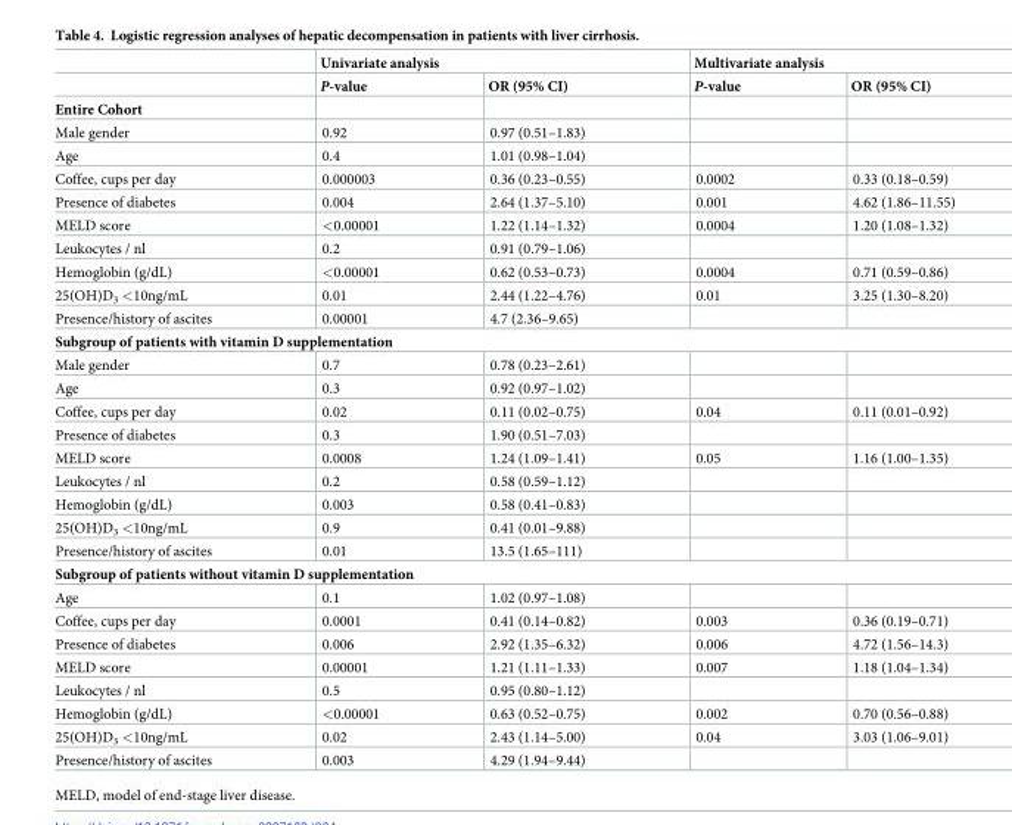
<table><thead><tr><td rowspan="2"></td><td colspan="2">Univariate analysis</td><td colspan="2">Multivariate analysis</td></tr><tr><td>P-value</td><td>OR (95% CI)</td><td>P-value</td><td>OR (95% CI)</td></tr></thead><tbody><tr><td colspan="5">Entire Cohort</td></tr><tr><td>Male gender</td><td>0.92</td><td>0.97 (0.51–1.83)</td><td></td><td></td></tr><tr><td>Age</td><td>0.4</td><td>1.01 (0.98–1.04)</td><td></td><td></td></tr><tr><td>Coffee, cups per day</td><td>0.000003</td><td>0.36 (0.23–0.55)</td><td>0.0002</td><td>0.33 (0.18–0.59)</td></tr><tr><td>Presence of diabetes</td><td>0.004</td><td>2.64 (1.37–5.10)</td><td>0.001</td><td>4.62 (1.86–11.55)</td></tr><tr><td>MELD score</td><td>&lt;0.00001</td><td>1.22 (1.14–1.32)</td><td>0.0004</td><td>1.20 (1.08–1.32)</td></tr><tr><td>Leukocytes / nl</td><td>0.2</td><td>0.91 (0.79–1.06)</td><td></td><td></td></tr><tr><td>Hemoglobin (g/dL)</td><td>&lt;0.00001</td><td>0.62 (0.53–0.73)</td><td>0.0004</td><td>0.71 (0.59–0.86)</td></tr><tr><td>25(OH)D<sub>3</sub> &lt;10ng/mL</td><td>0.01</td><td>2.44 (1.22–4.76)</td><td>0.01</td><td>3.25 (1.30–8.20)</td></tr><tr><td>Presence/history of ascites</td><td>0.00001</td><td>4.7 (2.36–9.65)</td><td></td><td></td></tr><tr><td colspan="5">Subgroup of patients with vitamin D supplementation</td></tr><tr><td>Male gender</td><td>0.7</td><td>0.78 (0.23–2.61)</td><td></td><td></td></tr><tr><td>Age</td><td>0.3</td><td>0.92 (0.97–1.02)</td><td></td><td></td></tr><tr><td>Coffee, cups per day</td><td>0.02</td><td>0.11 (0.02–0.75)</td><td>0.04</td><td>0.11 (0.01–0.92)</td></tr><tr><td>Presence of diabetes</td><td>0.3</td><td>1.90 (0.51–7.03)</td><td></td><td></td></tr><tr><td>MELD score</td><td>0.0008</td><td>1.24 (1.09–1.41)</td><td>0.05</td><td>1.16 (1.00–1.35)</td></tr><tr><td>Leukocytes / nl</td><td>0.2</td><td>0.58 (0.59–1.12)</td><td></td><td></td></tr><tr><td>Hemoglobin (g/dL)</td><td>0.003</td><td>0.58 (0.41–0.83)</td><td></td><td></td></tr><tr><td>25(OH)D<sub>3</sub> &lt;10ng/mL</td><td>0.9</td><td>0.41 (0.01–9.88)</td><td></td><td></td></tr><tr><td>Presence/history of ascites</td><td>0.01</td><td>13.5 (1.65–111)</td><td></td><td></td></tr><tr><td colspan="5">Subgroup of patients without vitamin D supplementation</td></tr><tr><td>Age</td><td>0.1</td><td>1.02 (0.97–1.08)</td><td></td><td></td></tr><tr><td>Coffee, cups per day</td><td>0.0001</td><td>0.41 (0.14–0.82)</td><td>0.003</td><td>0.36 (0.19–0.71)</td></tr><tr><td>Presence of diabetes</td><td>0.006</td><td>2.92 (1.35–6.32)</td><td>0.006</td><td>4.72 (1.56–14.3)</td></tr><tr><td>MELD score</td><td>0.00001</td><td>1.21 (1.11–1.33)</td><td>0.007</td><td>1.18 (1.04–1.34)</td></tr><tr><td>Leukocytes / nl</td><td>0.5</td><td>0.95 (0.80–1.12)</td><td></td><td></td></tr><tr><td>Hemoglobin (g/dL)</td><td>&lt;0.00001</td><td>0.63 (0.52–0.75)</td><td>0.002</td><td>0.70 (0.56–0.88)</td></tr><tr><td>25(OH)D<sub>3</sub> &lt;10ng/mL</td><td>0.02</td><td>2.43 (1.14–5.00)</td><td>0.04</td><td>3.03 (1.06–9.01)</td></tr><tr><td>Presence/history of ascites</td><td>0.003</td><td>4.29 (1.94–9.44)</td><td></td><td></td></tr></tbody></table>